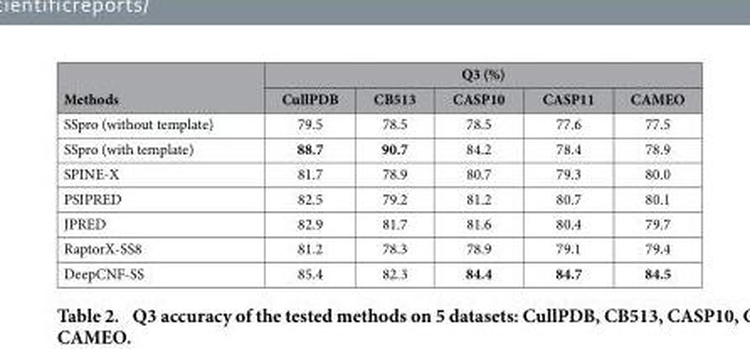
<table><thead><tr><td rowspan="2">Methods</td><td colspan="5">Q3 (%)</td></tr><tr><td>CullPDB</td><td>CB513</td><td>CASP10</td><td>CASP11</td><td>CAMEO</td></tr></thead><tbody><tr><td>SSpro (without template)</td><td>79.5</td><td>78.5</td><td>78.5</td><td>77.6</td><td>77.5</td></tr><tr><td>SSpro (with template)</td><td>88.7</td><td>90.7</td><td>84.2</td><td>78.4</td><td>78.9</td></tr><tr><td>SPINE-X</td><td>81.7</td><td>78.9</td><td>80.7</td><td>79.3</td><td>80.0</td></tr><tr><td>PSIPRED</td><td>82.5</td><td>79.2</td><td>81.2</td><td>80.7</td><td>80.1</td></tr><tr><td>JPRED</td><td>82.9</td><td>81.7</td><td>81.6</td><td>80.4</td><td>79.7</td></tr><tr><td>RaptorX-SS8</td><td>81.2</td><td>78.3</td><td>78.9</td><td>79.1</td><td>79.4</td></tr><tr><td>DeepCNF-SS</td><td>85.4</td><td>82.3</td><td>84.4</td><td>84.7</td><td>84.5</td></tr></tbody></table>